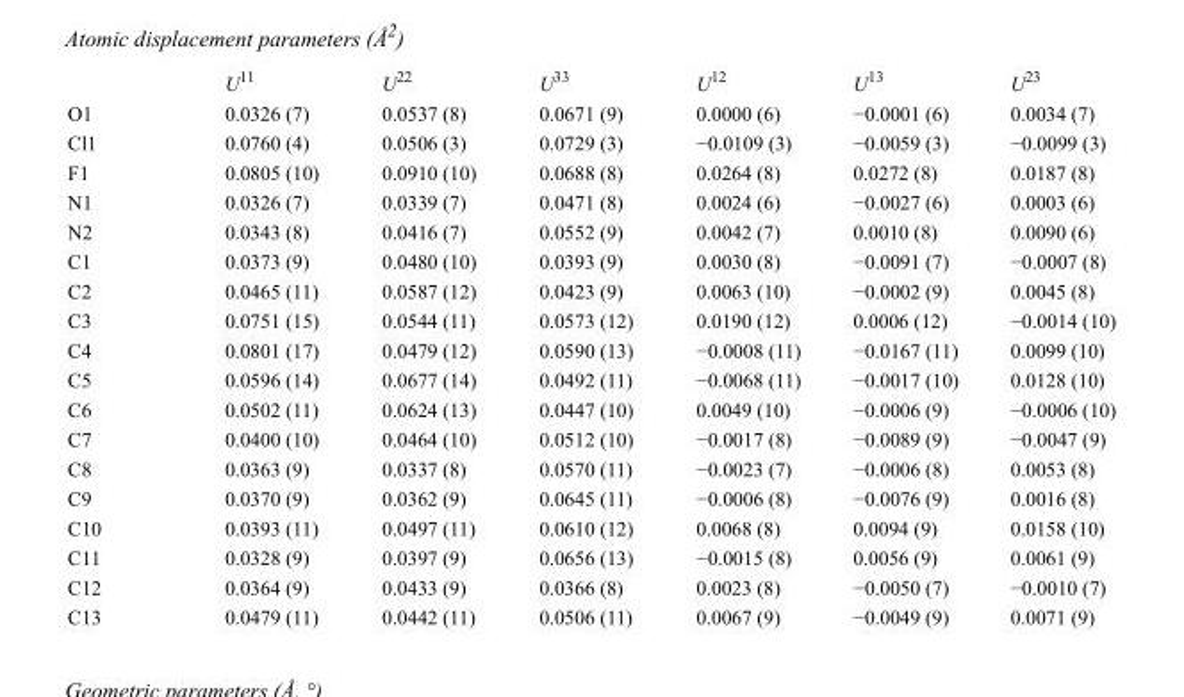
<table><thead><tr><td></td><td>U<sup>11</sup></td><td>U<sup>22</sup></td><td>U<sup>33</sup></td><td>U<sup>12</sup></td><td>U<sup>13</sup></td><td>U<sup>23</sup></td></tr></thead><tbody><tr><td>O1</td><td>0.0326 (7)</td><td>0.0537 (8)</td><td>0.0671 (9)</td><td>0.0000 (6)</td><td>−0.0001 (6)</td><td>0.0034 (7)</td></tr><tr><td>Cl1</td><td>0.0760 (4)</td><td>0.0506 (3)</td><td>0.0729 (3)</td><td>−0.0109 (3)</td><td>−0.0059 (3)</td><td>−0.0099 (3)</td></tr><tr><td>F1</td><td>0.0805 (10)</td><td>0.0910 (10)</td><td>0.0688 (8)</td><td>0.0264 (8)</td><td>0.0272 (8)</td><td>0.0187 (8)</td></tr><tr><td>N1</td><td>0.0326 (7)</td><td>0.0339 (7)</td><td>0.0471 (8)</td><td>0.0024 (6)</td><td>−0.0027 (6)</td><td>0.0003 (6)</td></tr><tr><td>N2</td><td>0.0343 (8)</td><td>0.0416 (7)</td><td>0.0552 (9)</td><td>0.0042 (7)</td><td>0.0010 (8)</td><td>0.0090 (6)</td></tr><tr><td>C1</td><td>0.0373 (9)</td><td>0.0480 (10)</td><td>0.0393 (9)</td><td>0.0030 (8)</td><td>−0.0091 (7)</td><td>−0.0007 (8)</td></tr><tr><td>C2</td><td>0.0465 (11)</td><td>0.0587 (12)</td><td>0.0423 (9)</td><td>0.0063 (10)</td><td>−0.0002 (9)</td><td>0.0045 (8)</td></tr><tr><td>C3</td><td>0.0751 (15)</td><td>0.0544 (11)</td><td>0.0573 (12)</td><td>0.0190 (12)</td><td>0.0006 (12)</td><td>−0.0014 (10)</td></tr><tr><td>C4</td><td>0.0801 (17)</td><td>0.0479 (12)</td><td>0.0590 (13)</td><td>−0.0008 (11)</td><td>−0.0167 (11)</td><td>0.0099 (10)</td></tr><tr><td>C5</td><td>0.0596 (14)</td><td>0.0677 (14)</td><td>0.0492 (11)</td><td>−0.0068 (11)</td><td>−0.0017 (10)</td><td>0.0128 (10)</td></tr><tr><td>C6</td><td>0.0502 (11)</td><td>0.0624 (13)</td><td>0.0447 (10)</td><td>0.0049 (10)</td><td>−0.0006 (9)</td><td>−0.0006 (10)</td></tr><tr><td>C7</td><td>0.0400 (10)</td><td>0.0464 (10)</td><td>0.0512 (10)</td><td>−0.0017 (8)</td><td>−0.0089 (9)</td><td>−0.0047 (9)</td></tr><tr><td>C8</td><td>0.0363 (9)</td><td>0.0337 (8)</td><td>0.0570 (11)</td><td>−0.0023 (7)</td><td>−0.0006 (8)</td><td>0.0053 (8)</td></tr><tr><td>C9</td><td>0.0370 (9)</td><td>0.0362 (9)</td><td>0.0645 (11)</td><td>−0.0006 (8)</td><td>−0.0076 (9)</td><td>0.0016 (8)</td></tr><tr><td>C10</td><td>0.0393 (11)</td><td>0.0497 (11)</td><td>0.0610 (12)</td><td>0.0068 (8)</td><td>0.0094 (9)</td><td>0.0158 (10)</td></tr><tr><td>C11</td><td>0.0328 (9)</td><td>0.0397 (9)</td><td>0.0656 (13)</td><td>−0.0015 (8)</td><td>0.0056 (9)</td><td>0.0061 (9)</td></tr><tr><td>C12</td><td>0.0364 (9)</td><td>0.0433 (9)</td><td>0.0366 (8)</td><td>0.0023 (8)</td><td>−0.0050 (7)</td><td>−0.0010 (7)</td></tr><tr><td>C13</td><td>0.0479 (11)</td><td>0.0442 (11)</td><td>0.0506 (11)</td><td>0.0067 (9)</td><td>−0.0049 (9)</td><td>0.0071 (9)</td></tr></tbody></table>